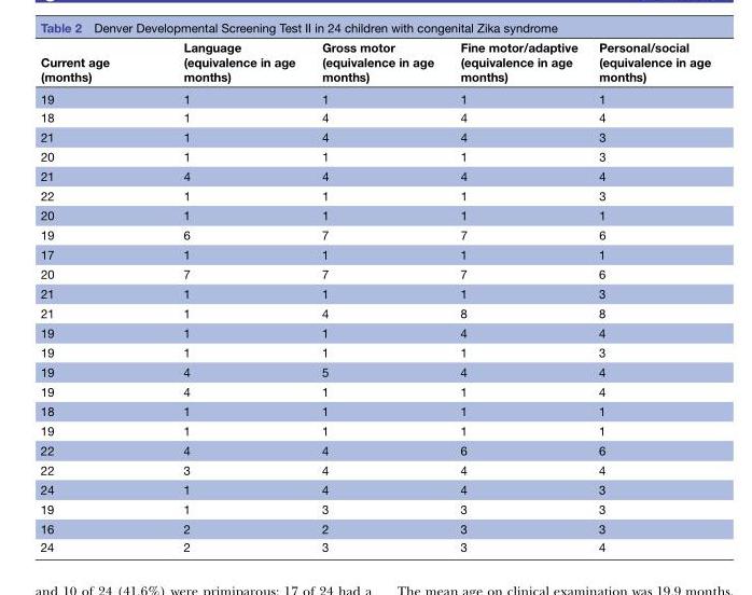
<table><thead><tr><td>Current age (months)</td><td>Language (equivalence in age months)</td><td>Gross motor (equivalence in age months)</td><td>Fine motor/adaptive (equivalence in age months)</td><td>Personal/social (equivalence in age months)</td></tr></thead><tbody><tr><td>19</td><td>1</td><td>1</td><td>1</td><td>1</td></tr><tr><td>18</td><td>1</td><td>4</td><td>4</td><td>4</td></tr><tr><td>21</td><td>1</td><td>4</td><td>4</td><td>3</td></tr><tr><td>20</td><td>1</td><td>1</td><td>1</td><td>3</td></tr><tr><td>21</td><td>4</td><td>4</td><td>4</td><td>4</td></tr><tr><td>22</td><td>1</td><td>1</td><td>1</td><td>3</td></tr><tr><td>20</td><td>1</td><td>1</td><td>1</td><td>1</td></tr><tr><td>19</td><td>6</td><td>7</td><td>7</td><td>6</td></tr><tr><td>17</td><td>1</td><td>1</td><td>1</td><td>1</td></tr><tr><td>20</td><td>7</td><td>7</td><td>7</td><td>6</td></tr><tr><td>21</td><td>1</td><td>1</td><td>1</td><td>3</td></tr><tr><td>21</td><td>1</td><td>4</td><td>8</td><td>8</td></tr><tr><td>19</td><td>1</td><td>1</td><td>4</td><td>4</td></tr><tr><td>19</td><td>1</td><td>1</td><td>1</td><td>3</td></tr><tr><td>19</td><td>4</td><td>5</td><td>4</td><td>4</td></tr><tr><td>19</td><td>4</td><td>1</td><td>1</td><td>4</td></tr><tr><td>18</td><td>1</td><td>1</td><td>1</td><td>1</td></tr><tr><td>19</td><td>1</td><td>1</td><td>1</td><td>1</td></tr><tr><td>22</td><td>4</td><td>4</td><td>6</td><td>6</td></tr><tr><td>22</td><td>3</td><td>4</td><td>4</td><td>4</td></tr><tr><td>24</td><td>1</td><td>4</td><td>4</td><td>3</td></tr><tr><td>19</td><td>1</td><td>3</td><td>3</td><td>3</td></tr><tr><td>16</td><td>2</td><td>2</td><td>3</td><td>3</td></tr><tr><td>24</td><td>2</td><td>3</td><td>3</td><td>4</td></tr></tbody></table>